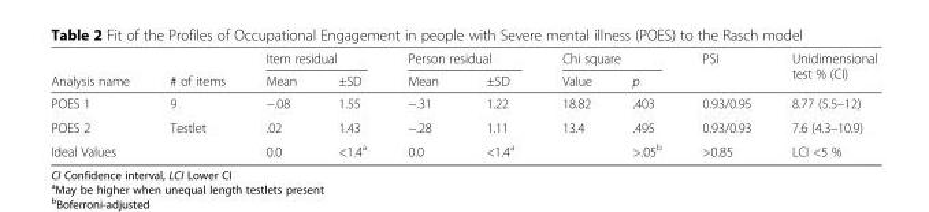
<table><thead><tr><td rowspan="2">Analysis name</td><td rowspan="2"># of items</td><td colspan="2">Item residual</td><td colspan="2">Person residual</td><td colspan="2">Chi square</td><td rowspan="2">PSI</td><td rowspan="2">Unidimensional test % (CI)</td></tr><tr><td>Mean</td><td>±SD</td><td>Mean</td><td>±SD</td><td>Value</td><td>p</td></tr></thead><tbody><tr><td>POES 1</td><td>9</td><td>−.08</td><td>1.55</td><td>−.31</td><td>1.22</td><td>18.82</td><td>.403</td><td>0.93/0.95</td><td>8.77 (5.5–12)</td></tr><tr><td>POES 2</td><td>Testlet</td><td>.02</td><td>1.43</td><td>−.28</td><td>1.11</td><td>13.4</td><td>.495</td><td>0.93/0.93</td><td>7.6 (4.3–10.9)</td></tr><tr><td>Ideal Values</td><td></td><td>0.0</td><td>&lt;1.4<sup>a</sup></td><td>0.0</td><td>&lt;1.4<sup>a</sup></td><td></td><td>&gt;.05<sup>b</sup></td><td>&gt;0.85</td><td>LCI &lt;5 %</td></tr></tbody></table>